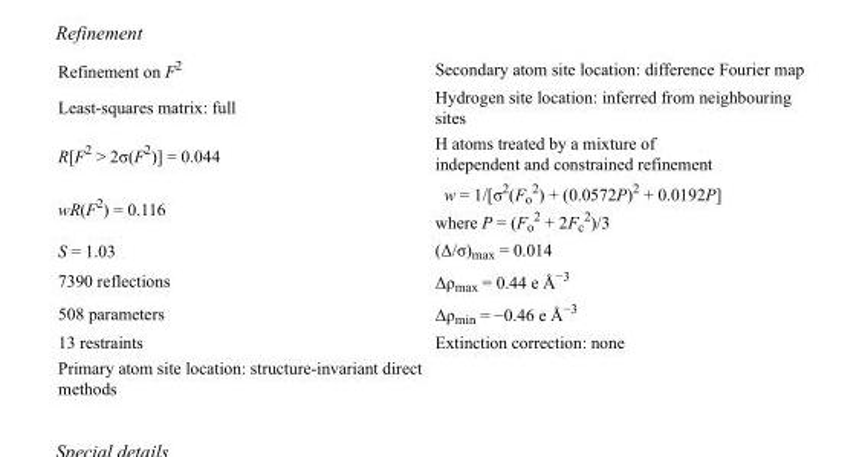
<table><tbody><tr><td>Refinement on F<sup>2</sup></td><td>Secondary atom site location: difference Fourier map</td></tr><tr><td>Least-squares matrix: full</td><td>Hydrogen site location: inferred from neighbouring sites</td></tr><tr><td>R[F<sup>2</sup> &gt; 2σ(F<sup>2</sup>)] = 0.044</td><td>H atoms treated by a mixture of independent and constrained refinement</td></tr><tr><td>wR(F<sup>2</sup>) = 0.116</td><td>w = 1/[σ<sup>2</sup>(F<sub>o</sub> <sup>2</sup>) + (0.0572P)<sup>2</sup> + 0.0192P] where P = (F<sub>o</sub> <sup>2</sup> + 2F<sub>c</sub> <sup>2</sup>)/3</td></tr><tr><td>S = 1.03</td><td>(Δ/σ)<sub>max</sub> = 0.014</td></tr><tr><td>7390 reflections</td><td>Δρ<sub>max</sub> = 0.44 e Å<sup>−3</sup></td></tr><tr><td>508 parameters</td><td>Δρ<sub>min</sub> = −0.46 e Å<sup>−3</sup></td></tr><tr><td>13 restraints</td><td>Extinction correction: none</td></tr><tr><td>Primary atom site location: structure-invariant direct methods</td><td></td></tr></tbody></table>